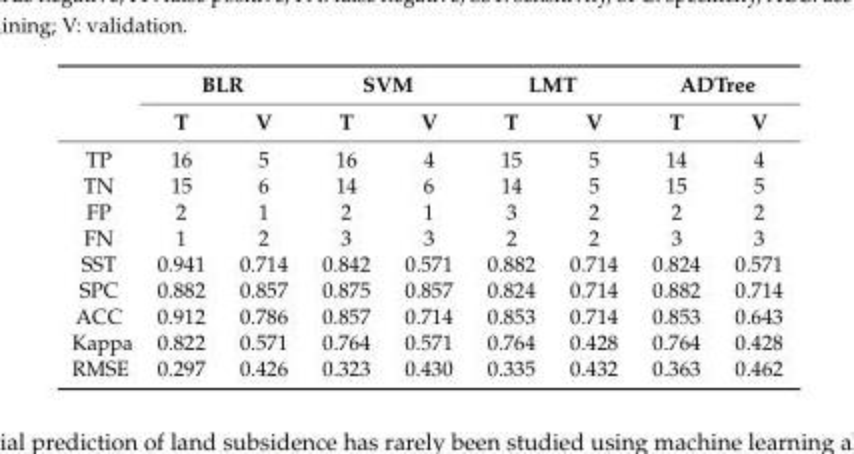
<table><thead><tr><td rowspan="2"></td><td colspan="2">BLR</td><td colspan="2">SVM</td><td colspan="2">LMT</td><td colspan="2">ADTree</td></tr><tr><td>T</td><td>V</td><td>T</td><td>V</td><td>T</td><td>V</td><td>T</td><td>V</td></tr></thead><tbody><tr><td>TP</td><td>16</td><td>5</td><td>16</td><td>4</td><td>15</td><td>5</td><td>14</td><td>4</td></tr><tr><td>TN</td><td>15</td><td>6</td><td>14</td><td>6</td><td>14</td><td>5</td><td>15</td><td>5</td></tr><tr><td>FP</td><td>2</td><td>1</td><td>2</td><td>1</td><td>3</td><td>2</td><td>2</td><td>2</td></tr><tr><td>FN</td><td>1</td><td>2</td><td>3</td><td>3</td><td>2</td><td>2</td><td>3</td><td>3</td></tr><tr><td>SST</td><td>0.941</td><td>0.714</td><td>0.842</td><td>0.571</td><td>0.882</td><td>0.714</td><td>0.824</td><td>0.571</td></tr><tr><td>SPC</td><td>0.882</td><td>0.857</td><td>0.875</td><td>0.857</td><td>0.824</td><td>0.714</td><td>0.882</td><td>0.714</td></tr><tr><td>ACC</td><td>0.912</td><td>0.786</td><td>0.857</td><td>0.714</td><td>0.853</td><td>0.714</td><td>0.853</td><td>0.643</td></tr><tr><td>Kappa</td><td>0.822</td><td>0.571</td><td>0.764</td><td>0.571</td><td>0.764</td><td>0.428</td><td>0.764</td><td>0.428</td></tr><tr><td>RMSE</td><td>0.297</td><td>0.426</td><td>0.323</td><td>0.430</td><td>0.335</td><td>0.432</td><td>0.363</td><td>0.462</td></tr></tbody></table>